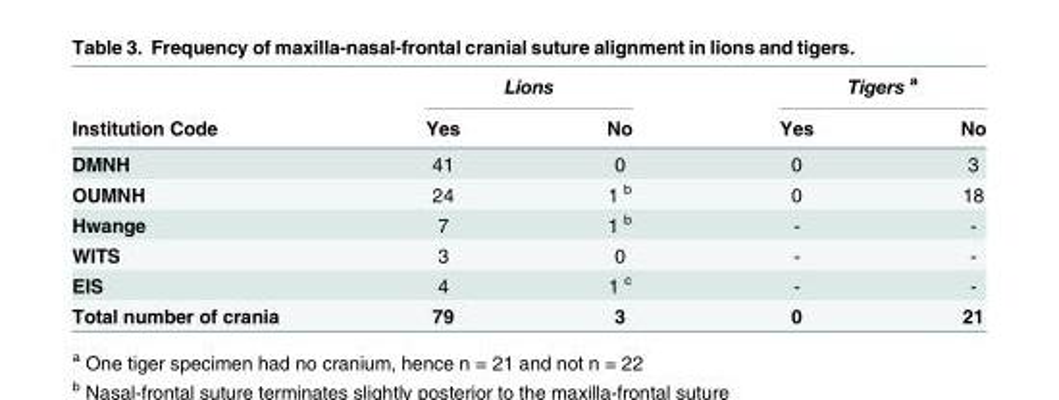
<table><thead><tr><td rowspan="2">Institution Code</td><td colspan="2">Lions</td><td colspan="2">Tigers <sup>a</sup></td></tr><tr><td>Yes</td><td>No</td><td>Yes</td><td>No</td></tr></thead><tbody><tr><td>DMNH</td><td>41</td><td>0</td><td>0</td><td>3</td></tr><tr><td>OUMNH</td><td>24</td><td>1 <sup>b</sup></td><td>0</td><td>18</td></tr><tr><td>Hwange</td><td>7</td><td>1 <sup>b</sup></td><td>-</td><td>-</td></tr><tr><td>WITS</td><td>3</td><td>0</td><td>-</td><td>-</td></tr><tr><td>EIS</td><td>4</td><td>1 <sup>c</sup></td><td>-</td><td>-</td></tr><tr><td>Total number of crania</td><td>79</td><td>3</td><td>0</td><td>21</td></tr></tbody></table>